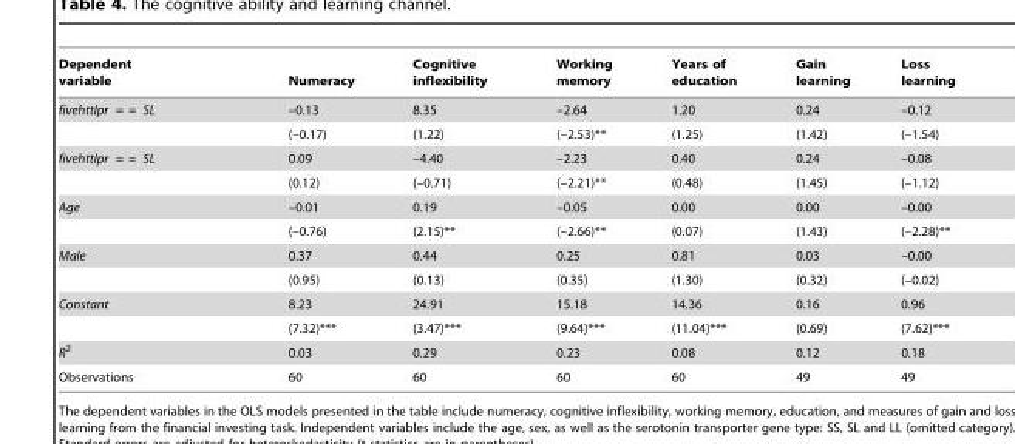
<table><thead><tr><td>Dependent variable</td><td>Numeracy</td><td>Cognitive inflexibility</td><td>Working memory</td><td>Years of education</td><td>Gain learning</td><td>Loss learning</td></tr></thead><tbody><tr><td rowspan="2">fivehttlpr = = SL</td><td>–0.13</td><td>8.35</td><td>–2.64</td><td>1.20</td><td>0.24</td><td>–0.12</td></tr><tr><td>(–0.17)</td><td>(1.22)</td><td>(–2.53)**</td><td>(1.25)</td><td>(1.42)</td><td>(–1.54)</td></tr><tr><td rowspan="2">fivehttlpr = = SL</td><td>0.09</td><td>–4.40</td><td>–2.23</td><td>0.40</td><td>0.24</td><td>–0.08</td></tr><tr><td>(0.12)</td><td>(–0.71)</td><td>(–2.21)**</td><td>(0.48)</td><td>(1.45)</td><td>(–1.12)</td></tr><tr><td rowspan="2">Age</td><td>–0.01</td><td>0.19</td><td>–0.05</td><td>0.00</td><td>0.00</td><td>–0.00</td></tr><tr><td>(–0.76)</td><td>(2.15)**</td><td>(–2.66)**</td><td>(0.07)</td><td>(1.43)</td><td>(–2.28)**</td></tr><tr><td rowspan="2">Male</td><td>0.37</td><td>0.44</td><td>0.25</td><td>0.81</td><td>0.03</td><td>–0.00</td></tr><tr><td>(0.95)</td><td>(0.13)</td><td>(0.35)</td><td>(1.30)</td><td>(0.32)</td><td>(–0.02)</td></tr><tr><td rowspan="2">Constant</td><td>8.23</td><td>24.91</td><td>15.18</td><td>14.36</td><td>0.16</td><td>0.96</td></tr><tr><td>(7.32)***</td><td>(3.47)***</td><td>(9.64)***</td><td>(11.04)***</td><td>(0.69)</td><td>(7.62)***</td></tr><tr><td>R<sup>2</sup></td><td>0.03</td><td>0.29</td><td>0.23</td><td>0.08</td><td>0.12</td><td>0.18</td></tr><tr><td>Observations</td><td>60</td><td>60</td><td>60</td><td>60</td><td>49</td><td>49</td></tr></tbody></table>